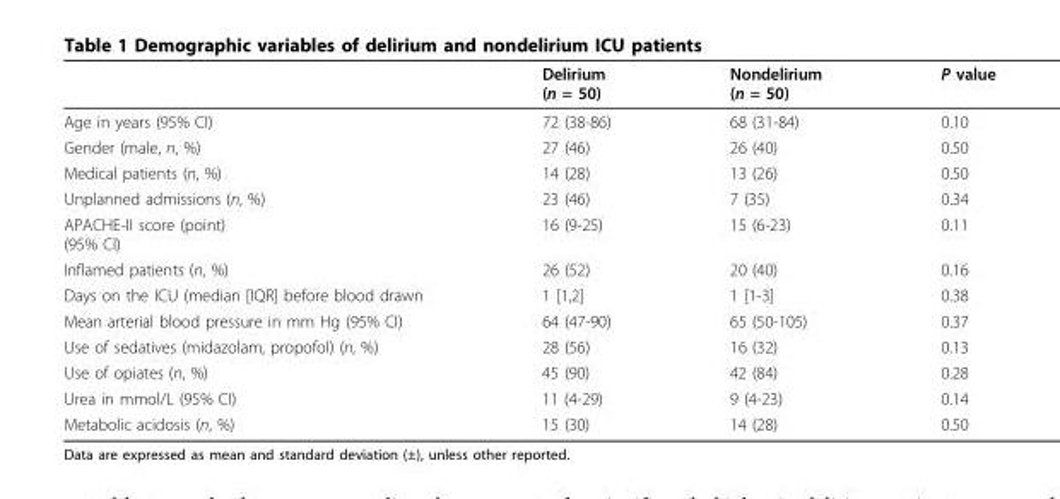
<table><thead><tr><td></td><td>Delirium (n = 50)</td><td>Nondelirium (n = 50)</td><td>P value</td></tr></thead><tbody><tr><td>Age in years (95% CI)</td><td>72 (38-86)</td><td>68 (31-84)</td><td>0.10</td></tr><tr><td>Gender (male, n, %)</td><td>27 (46)</td><td>26 (40)</td><td>0.50</td></tr><tr><td>Medical patients (n, %)</td><td>14 (28)</td><td>13 (26)</td><td>0.50</td></tr><tr><td>Unplanned admissions (n, %)</td><td>23 (46)</td><td>7 (35)</td><td>0.34</td></tr><tr><td>APACHE-II score (point) (95% CI)</td><td>16 (9-25)</td><td>15 (6-23)</td><td>0.11</td></tr><tr><td>Inflamed patients (n, %)</td><td>26 (52)</td><td>20 (40)</td><td>0.16</td></tr><tr><td>Days on the ICU (median [IQR] before blood drawn</td><td>1 [1,2]</td><td>1 [1-3]</td><td>0.38</td></tr><tr><td>Mean arterial blood pressure in mm Hg (95% CI)</td><td>64 (47-90)</td><td>65 (50-105)</td><td>0.37</td></tr><tr><td>Use of sedatives (midazolam, propofol) (n, %)</td><td>28 (56)</td><td>16 (32)</td><td>0.13</td></tr><tr><td>Use of opiates (n, %)</td><td>45 (90)</td><td>42 (84)</td><td>0.28</td></tr><tr><td>Urea in mmol/L (95% CI)</td><td>11 (4-29)</td><td>9 (4-23)</td><td>0.14</td></tr><tr><td>Metabolic acidosis (n, %)</td><td>15 (30)</td><td>14 (28)</td><td>0.50</td></tr></tbody></table>